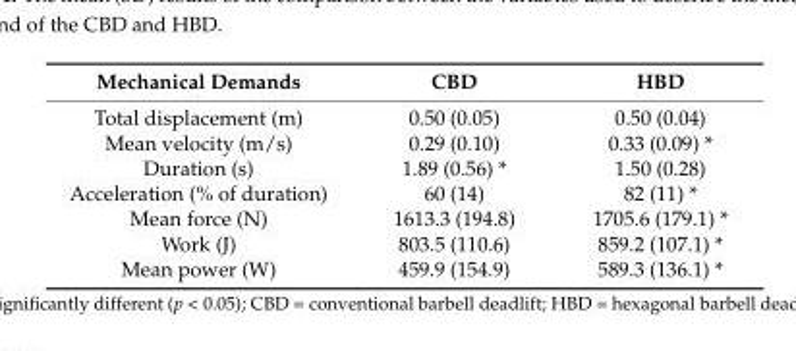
<table><thead><tr><td>Mechanical Demands</td><td>CBD</td><td>HBD</td></tr></thead><tbody><tr><td>Total displacement (m)</td><td>0.50 (0.05)</td><td>0.50 (0.04)</td></tr><tr><td>Mean velocity (m/s)</td><td>0.29 (0.10)</td><td>0.33 (0.09) *</td></tr><tr><td>Duration (s)</td><td>1.89 (0.56) *</td><td>1.50 (0.28)</td></tr><tr><td>Acceleration (% of duration)</td><td>60 (14)</td><td>82 (11) *</td></tr><tr><td>Mean force (N)</td><td>1613.3 (194.8)</td><td>1705.6 (179.1) *</td></tr><tr><td>Work (J)</td><td>803.5 (110.6)</td><td>859.2 (107.1) *</td></tr><tr><td>Mean power (W)</td><td>459.9 (154.9)</td><td>589.3 (136.1) *</td></tr></tbody></table>